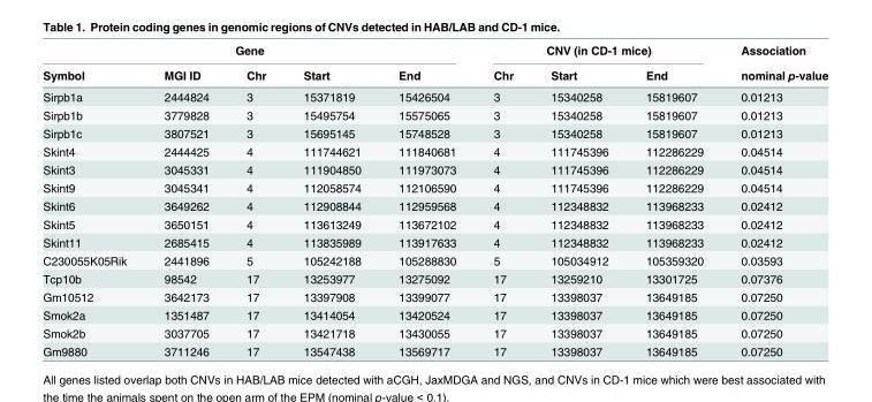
<table><thead><tr><td colspan="5">Gene</td><td colspan="3">CNV (in CD-1 mice)</td><td rowspan="2">Association nominal p-value</td></tr><tr><td>Symbol</td><td>MGI ID</td><td>Chr</td><td>Start</td><td>End</td><td>Chr</td><td>Start</td><td>End</td></tr></thead><tbody><tr><td>Sirpb1a</td><td>2444824</td><td>3</td><td>15371819</td><td>15426504</td><td>3</td><td>15340258</td><td>15819607</td><td>0.01213</td></tr><tr><td>Sirpb1b</td><td>3779828</td><td>3</td><td>15495754</td><td>15575065</td><td>3</td><td>15340258</td><td>15819607</td><td>0.01213</td></tr><tr><td>Sirpb1c</td><td>3807521</td><td>3</td><td>15695145</td><td>15748528</td><td>3</td><td>15340258</td><td>15819607</td><td>0.01213</td></tr><tr><td>Skint4</td><td>2444425</td><td>4</td><td>111744621</td><td>111840681</td><td>4</td><td>111745396</td><td>112286229</td><td>0.04514</td></tr><tr><td>Skint3</td><td>3045331</td><td>4</td><td>111904850</td><td>111973073</td><td>4</td><td>111745396</td><td>112286229</td><td>0.04514</td></tr><tr><td>Skint9</td><td>3045341</td><td>4</td><td>112058574</td><td>112106590</td><td>4</td><td>111745396</td><td>112286229</td><td>0.04514</td></tr><tr><td>Skint6</td><td>3649262</td><td>4</td><td>112908844</td><td>112959568</td><td>4</td><td>112348832</td><td>113968233</td><td>0.02412</td></tr><tr><td>Skint5</td><td>3650151</td><td>4</td><td>113613249</td><td>113672102</td><td>4</td><td>112348832</td><td>113968233</td><td>0.02412</td></tr><tr><td>Skint11</td><td>2685415</td><td>4</td><td>113835989</td><td>113917633</td><td>4</td><td>112348832</td><td>113968233</td><td>0.02412</td></tr><tr><td>C230055K05Rik</td><td>2441896</td><td>5</td><td>105242188</td><td>105288830</td><td>5</td><td>105034912</td><td>105359320</td><td>0.03593</td></tr><tr><td>Tcp10b</td><td>98542</td><td>17</td><td>13253977</td><td>13275092</td><td>17</td><td>13259210</td><td>13301725</td><td>0.07376</td></tr><tr><td>Gm10512</td><td>3642173</td><td>17</td><td>13397908</td><td>13399077</td><td>17</td><td>13398037</td><td>13649185</td><td>0.07250</td></tr><tr><td>Smok2a</td><td>1351487</td><td>17</td><td>13414054</td><td>13420524</td><td>17</td><td>13398037</td><td>13649185</td><td>0.07250</td></tr><tr><td>Smok2b</td><td>3037705</td><td>17</td><td>13421718</td><td>13430055</td><td>17</td><td>13398037</td><td>13649185</td><td>0.07250</td></tr><tr><td>Gm9880</td><td>3711246</td><td>17</td><td>13547438</td><td>13569717</td><td>17</td><td>13398037</td><td>13649185</td><td>0.07250</td></tr></tbody></table>